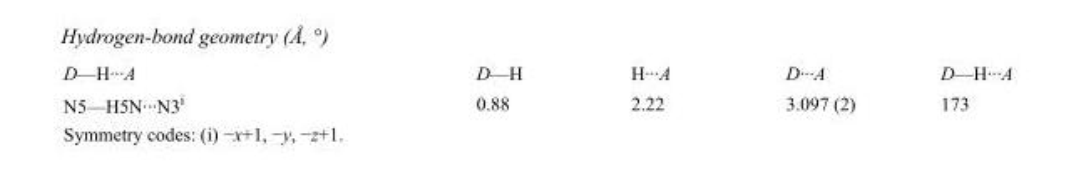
<table><tbody><tr><td>D—H···A</td><td>D—H</td><td>H···A</td><td>D···A</td><td>D—H···A</td></tr><tr><td>N5—H5N···N3<sup>i</sup></td><td>0.88</td><td>2.22</td><td>3.097 (2)</td><td>173</td></tr></tbody></table>